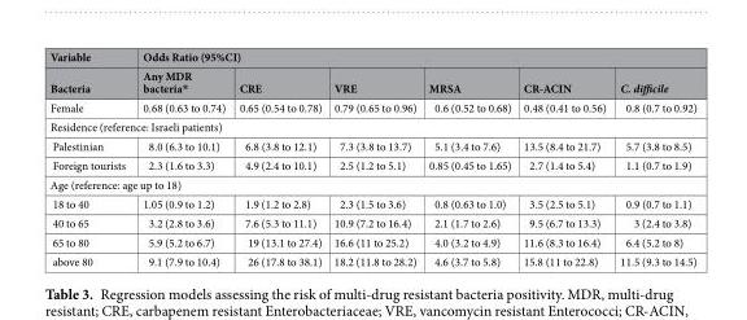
<table><thead><tr><td rowspan="2">Variable Bacteria</td><td colspan="6">Odds Ratio (95%CI)</td></tr><tr><td>Any MDR bacteria*</td><td>CRE</td><td>VRE</td><td>MRSA</td><td>CR-ACIN</td><td>C. difficile</td></tr></thead><tbody><tr><td>Female</td><td>0.68 (0.63 to 0.74)</td><td>0.65 (0.54 to 0.78)</td><td>0.79 (0.65 to 0.96)</td><td>0.6 (0.52 to 0.68)</td><td>0.48 (0.41 to 0.56)</td><td>0.8 (0.7 to 0.92)</td></tr><tr><td colspan="7">Residence (reference: Israeli patients)</td></tr><tr><td>Palestinian</td><td>8.0 (6.3 to 10.1)</td><td>6.8 (3.8 to 12.1)</td><td>7.3 (3.8 to 13.7)</td><td>5.1 (3.4 to 7.6)</td><td>13.5 (8.4 to 21.7)</td><td>5.7 (3.8 to 8.5)</td></tr><tr><td>Foreign tourists</td><td>2.3 (1.6 to 3.3)</td><td>4.9 (2.4 to 10.1)</td><td>2.5 (1.2 to 5.1)</td><td>0.85 (0.45 to 1.65)</td><td>2.7 (1.4 to 5.4)</td><td>1.1 (0.7 to 1.9)</td></tr><tr><td colspan="7">Age (reference: age up to 18)</td></tr><tr><td>18 to 40</td><td>1.05 (0.9 to 1.2)</td><td>1.9 (1.2 to 2.8)</td><td>2.3 (1.5 to 3.6)</td><td>0.8 (0.63 to 1.0)</td><td>3.5 (2.5 to 5.1)</td><td>0.9 (0.7 to 1.1)</td></tr><tr><td>40 to 65</td><td>3.2 (2.8 to 3.6)</td><td>7.6 (5.3 to 11.1)</td><td>10.9 (7.2 to 16.4)</td><td>2.1 (1.7 to 2.6)</td><td>9.5 (6.7 to 13.3)</td><td>3 (2.4 to 3.8)</td></tr><tr><td>65 to 80</td><td>5.9 (5.2 to 6.7)</td><td>19 (13.1 to 27.4)</td><td>16.6 (11 to 25.2)</td><td>4.0 (3.2 to 4.9)</td><td>11.6 (8.3 to 16.4)</td><td>6.4 (5.2 to 8)</td></tr><tr><td>above 80</td><td>9.1 (7.9 to 10.4)</td><td>26 (17.8 to 38.1)</td><td>18.2 (11.8 to 28.2)</td><td>4.6 (3.7 to 5.8)</td><td>15.8 (11 to 22.8)</td><td>11.5 (9.3 to 14.5)</td></tr></tbody></table>